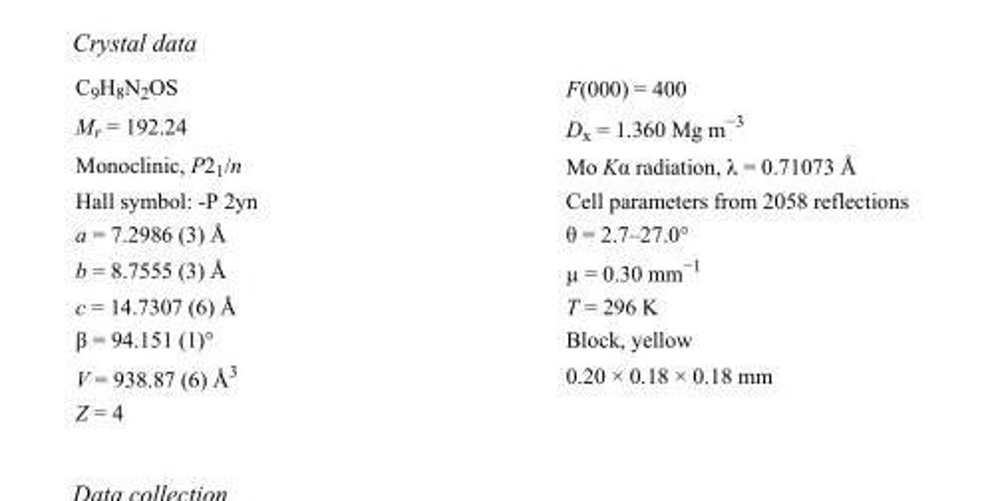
<table><tbody><tr><td>C<sub>9</sub>H<sub>8</sub>N<sub>2</sub>OS</td><td>F(000) = 400</td></tr><tr><td>M<sub>r</sub> = 192.24</td><td>D<sub>x</sub> = 1.360 Mg m<sup>−3</sup></td></tr><tr><td>Monoclinic, P2<sub>1</sub>/n</td><td>Mo Kα radiation, λ = 0.71073 Å</td></tr><tr><td>Hall symbol: -P 2yn</td><td>Cell parameters from 2058 reflections</td></tr><tr><td>a = 7.2986 (3) Å</td><td>θ = 2.7–27.0°</td></tr><tr><td>b = 8.7555 (3) Å</td><td>µ = 0.30 mm<sup>−1</sup></td></tr><tr><td>c = 14.7307 (6) Å</td><td>T = 296 K</td></tr><tr><td>β = 94.151 (1)°</td><td>Block, yellow</td></tr><tr><td>V = 938.87 (6) Å<sup>3</sup></td><td>0.20 × 0.18 × 0.18 mm</td></tr><tr><td>Z = 4</td><td></td></tr></tbody></table>